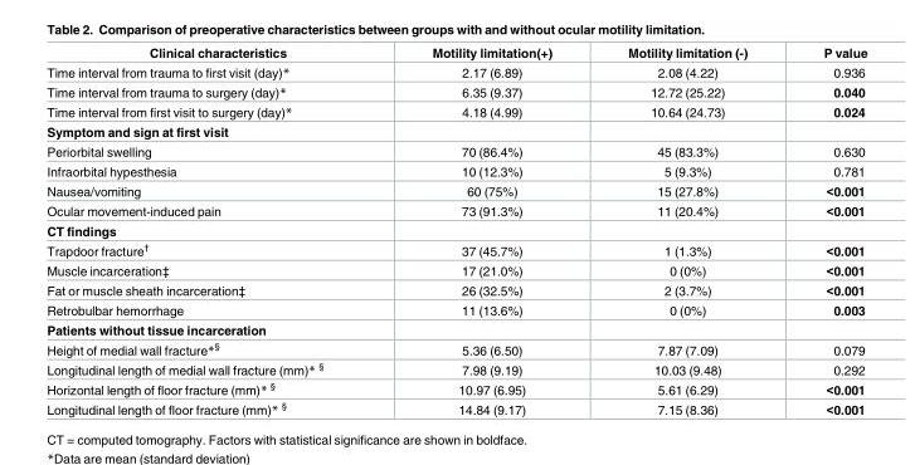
<table><thead><tr><td>Clinical characteristics</td><td>Motility limitation(+)</td><td>Motility limitation (-)</td><td>P value</td></tr></thead><tbody><tr><td>Time interval from trauma to first visit (day)*</td><td>2.17 (6.89)</td><td>2.08 (4.22)</td><td>0.936</td></tr><tr><td>Time interval from trauma to surgery (day)*</td><td>6.35 (9.37)</td><td>12.72 (25.22)</td><td>0.040</td></tr><tr><td>Time interval from first visit to surgery (day)*</td><td>4.18 (4.99)</td><td>10.64 (24.73)</td><td>0.024</td></tr><tr><td colspan="4">Symptom and sign at first visit</td></tr><tr><td>Periorbital swelling</td><td>70 (86.4%)</td><td>45 (83.3%)</td><td>0.630</td></tr><tr><td>Infraorbital hypesthesia</td><td>10 (12.3%)</td><td>5 (9.3%)</td><td>0.781</td></tr><tr><td>Nausea/vomiting</td><td>60 (75%)</td><td>15 (27.8%)</td><td>&lt;0.001</td></tr><tr><td>Ocular movement-induced pain</td><td>73 (91.3%)</td><td>11 (20.4%)</td><td>&lt;0.001</td></tr><tr><td colspan="4">CT findings</td></tr><tr><td>Trapdoor fracture<sup>†</sup></td><td>37 (45.7%)</td><td>1 (1.3%)</td><td>&lt;0.001</td></tr><tr><td>Muscle incarceration‡</td><td>17 (21.0%)</td><td>0 (0%)</td><td>&lt;0.001</td></tr><tr><td>Fat or muscle sheath incarceration‡</td><td>26 (32.5%)</td><td>2 (3.7%)</td><td>&lt;0.001</td></tr><tr><td>Retrobulbar hemorrhage</td><td>11 (13.6%)</td><td>0 (0%)</td><td>0.003</td></tr><tr><td colspan="4">Patients without tissue incarceration</td></tr><tr><td>Height of medial wall fracture*<sup>§</sup></td><td>5.36 (6.50)</td><td>7.87 (7.09)</td><td>0.079</td></tr><tr><td>Longitudinal length of medial wall fracture (mm)* <sup>§</sup></td><td>7.98 (9.19)</td><td>10.03 (9.48)</td><td>0.292</td></tr><tr><td>Horizontal length of floor fracture (mm)* <sup>§</sup></td><td>10.97 (6.95)</td><td>5.61 (6.29)</td><td>&lt;0.001</td></tr><tr><td>Longitudinal length of floor fracture (mm)* <sup>§</sup></td><td>14.84 (9.17)</td><td>7.15 (8.36)</td><td>&lt;0.001</td></tr></tbody></table>